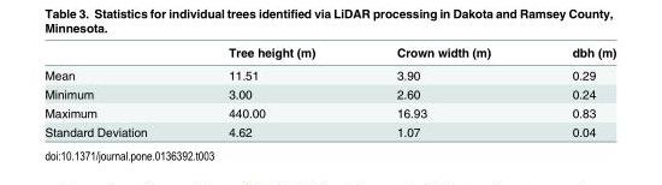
<table><thead><tr><td></td><td>Tree height (m)</td><td>Crown width (m)</td><td>dbh (m)</td></tr></thead><tbody><tr><td>Mean</td><td>11.51</td><td>3.90</td><td>0.29</td></tr><tr><td>Minimum</td><td>3.00</td><td>2.60</td><td>0.24</td></tr><tr><td>Maximum</td><td>440.00</td><td>16.93</td><td>0.83</td></tr><tr><td>Standard Deviation</td><td>4.62</td><td>1.07</td><td>0.04</td></tr></tbody></table>